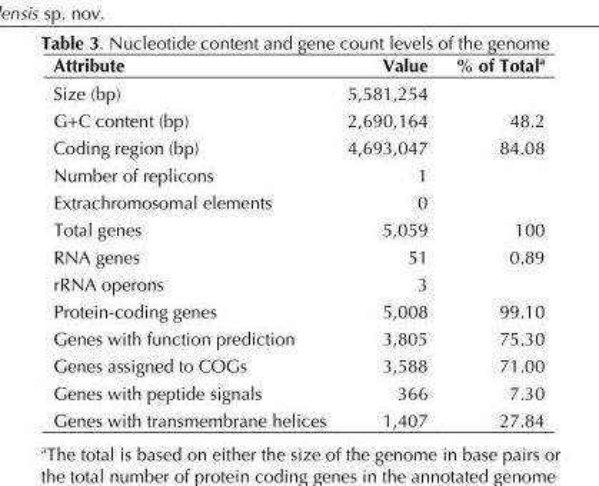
<table><thead><tr><td>Attribute</td><td>Value</td><td>% of Total<sup>a</sup></td></tr></thead><tbody><tr><td>Size (bp)</td><td>5,581,254</td><td></td></tr><tr><td>G+C content (bp)</td><td>2,690,164</td><td>48.2</td></tr><tr><td>Coding region (bp)</td><td>4,693,047</td><td>84.08</td></tr><tr><td>Number of replicons</td><td>1</td><td></td></tr><tr><td>Extrachromosomal elements</td><td>0</td><td></td></tr><tr><td>Total genes</td><td>5,059</td><td>100</td></tr><tr><td>RNA genes</td><td>51</td><td>0.89</td></tr><tr><td>rRNA operons</td><td>3</td><td></td></tr><tr><td>Protein-coding genes</td><td>5,008</td><td>99.10</td></tr><tr><td>Genes with function prediction</td><td>3,805</td><td>75.30</td></tr><tr><td>Genes assigned to COGs</td><td>3,588</td><td>71.00</td></tr><tr><td>Genes with peptide signals</td><td>366</td><td>7.30</td></tr><tr><td>Genes with transmembrane helices</td><td>1,407</td><td>27.84</td></tr></tbody></table>